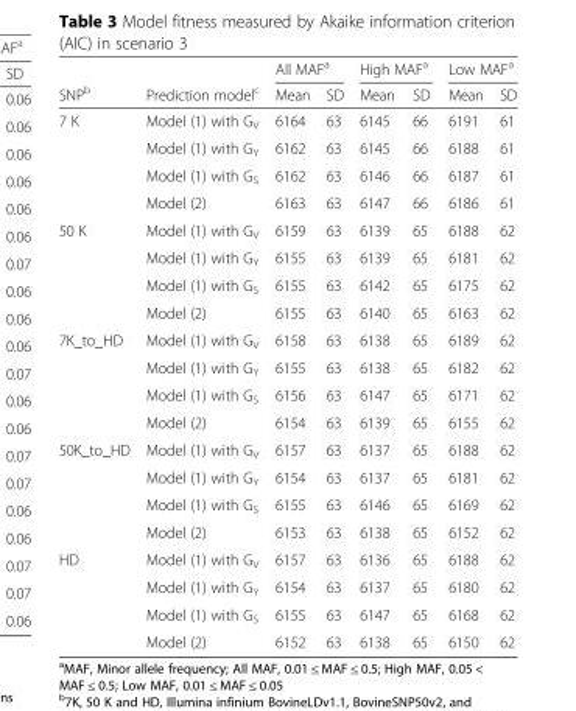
<table><thead><tr><td rowspan="2">SNP<sup>b</sup></td><td rowspan="2">Prediction model<sup>c</sup></td><td colspan="2">All MAF<sup>a</sup></td><td colspan="2">High MAF<sup>a</sup></td><td colspan="2">Low MAF<sup>a</sup></td></tr><tr><td>Mean</td><td>SD</td><td>Mean</td><td>SD</td><td>Mean</td><td>SD</td></tr></thead><tbody><tr><td rowspan="4">7 K</td><td>Model (1) with G<sub>V</sub></td><td>6164</td><td>63</td><td>6145</td><td>66</td><td>6191</td><td>61</td></tr><tr><td>Model (1) with G<sub>Y</sub></td><td>6162</td><td>63</td><td>6145</td><td>66</td><td>6188</td><td>61</td></tr><tr><td>Model (1) with G<sub>S</sub></td><td>6162</td><td>63</td><td>6146</td><td>66</td><td>6187</td><td>61</td></tr><tr><td>Model (2)</td><td>6163</td><td>63</td><td>6147</td><td>66</td><td>6186</td><td>61</td></tr><tr><td rowspan="4">50 K</td><td>Model (1) with G<sub>V</sub></td><td>6159</td><td>63</td><td>6139</td><td>65</td><td>6188</td><td>62</td></tr><tr><td>Model (1) with G<sub>Y</sub></td><td>6155</td><td>63</td><td>6139</td><td>65</td><td>6181</td><td>62</td></tr><tr><td>Model (1) with G<sub>S</sub></td><td>6155</td><td>63</td><td>6142</td><td>65</td><td>6175</td><td>62</td></tr><tr><td>Model (2)</td><td>6155</td><td>63</td><td>6140</td><td>65</td><td>6163</td><td>62</td></tr><tr><td rowspan="4">7K_to_HD</td><td>Model (1) with G<sub>V</sub></td><td>6158</td><td>63</td><td>6138</td><td>65</td><td>6189</td><td>62</td></tr><tr><td>Model (1) with G<sub>Y</sub></td><td>6155</td><td>63</td><td>6138</td><td>65</td><td>6182</td><td>62</td></tr><tr><td>Model (1) with G<sub>S</sub></td><td>6156</td><td>63</td><td>6147</td><td>65</td><td>6171</td><td>62</td></tr><tr><td>Model (2)</td><td>6154</td><td>63</td><td>6139</td><td>65</td><td>6155</td><td>62</td></tr><tr><td rowspan="4">50K_to_HD</td><td>Model (1) with G<sub>V</sub></td><td>6157</td><td>63</td><td>6137</td><td>65</td><td>6188</td><td>62</td></tr><tr><td>Model (1) with G<sub>Y</sub></td><td>6154</td><td>63</td><td>6137</td><td>65</td><td>6181</td><td>62</td></tr><tr><td>Model (1) with G<sub>S</sub></td><td>6155</td><td>63</td><td>6146</td><td>65</td><td>6169</td><td>62</td></tr><tr><td>Model (2)</td><td>6153</td><td>63</td><td>6138</td><td>65</td><td>6152</td><td>62</td></tr><tr><td rowspan="4">HD</td><td>Model (1) with G<sub>V</sub></td><td>6157</td><td>63</td><td>6136</td><td>65</td><td>6188</td><td>62</td></tr><tr><td>Model (1) with G<sub>Y</sub></td><td>6154</td><td>63</td><td>6137</td><td>65</td><td>6180</td><td>62</td></tr><tr><td>Model (1) with G<sub>S</sub></td><td>6155</td><td>63</td><td>6147</td><td>65</td><td>6168</td><td>62</td></tr><tr><td>Model (2)</td><td>6152</td><td>63</td><td>6138</td><td>65</td><td>6150</td><td>62</td></tr></tbody></table>